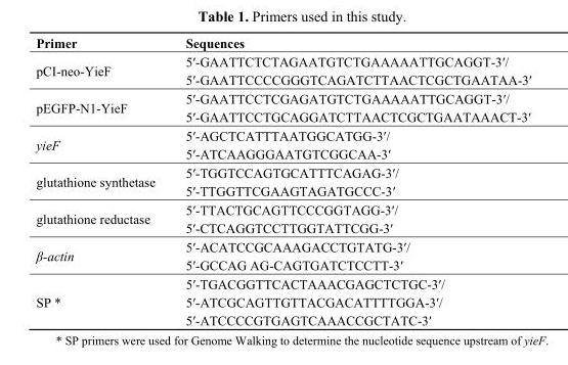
<table><thead><tr><td>Primer</td><td>Sequences</td></tr></thead><tbody><tr><td>pCI-neo-YieF</td><td>5ʹ-GAATTCTCTAGAATGTCTGAAAAATTGCAGGT-3ʹ/ 5ʹ-GAATTCCCCGGGTCAGATCTTAACTCGCTGAATAA-3ʹ</td></tr><tr><td>pEGFP-N1-YieF</td><td>5ʹ-GAATTCCTCGAGATGTCTGAAAAATTGCAGGT-3ʹ/ 5ʹ-GAATTCCTGCAGGATCTTAACTCGCTGAATAAACT-3ʹ</td></tr><tr><td>yieF</td><td>5ʹ-AGCTCATTTAATGGCATGG-3ʹ/ 5ʹ-ATCAAGGGAATGTCGGCAA-3ʹ</td></tr><tr><td>glutathione synthetase</td><td>5ʹ-TGGTCCAGTGCATTTCAGAG-3ʹ/ 5ʹ-TTGGTTCGAAGTAGATGCCC-3ʹ</td></tr><tr><td>glutathione reductase</td><td>5ʹ-TTACTGCAGTTCCCGGTAGG-3ʹ/ 5ʹ-CTCAGGTCCTTGGTATTCGG-3ʹ</td></tr><tr><td>β-actin</td><td>5ʹ-ACATCCGCAAAGACCTGTATG-3ʹ/ 5ʹ-GCCAG AG-CAGTGATCTCCTT-3ʹ</td></tr><tr><td>SP *</td><td>5ʹ-TGACGGTTCACTAAACGAGCTCTGC-3ʹ/ 5ʹ-ATCGCAGTTGTTACGACATTTTGGA-3ʹ/ 5ʹ-ATCCCCGTGAGTCAAACCGCTATC-3ʹ</td></tr></tbody></table>